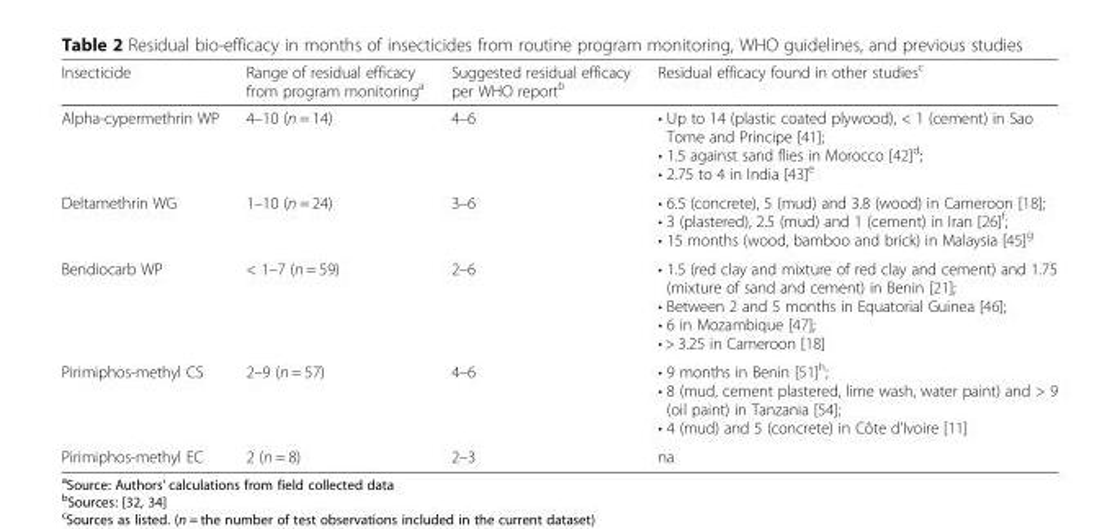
<table><thead><tr><td>Insecticide</td><td>Range of residual efficacy from program monitoring<sup>a</sup></td><td>Suggested residual efficacy per WHO report<sup>b</sup></td><td>Residual efficacy found in other studies<sup>c</sup></td></tr></thead><tbody><tr><td>Alpha-cypermethrin WP</td><td>4–10 (n = 14)</td><td>4–6</td><td>• Up to 14 (plastic coated plywood), &lt; 1 (cement) in Sao Tome and Principe [41]; • 1.5 against sand flies in Morocco [42]<sup>d</sup>; • 2.75 to 4 in India [43]<sup>e</sup></td></tr><tr><td>Deltamethrin WG</td><td>1–10 (n = 24)</td><td>3–6</td><td>• 6.5 (concrete), 5 (mud) and 3.8 (wood) in Cameroon [18]; • 3 (plastered), 2.5 (mud) and 1 (cement) in Iran [26]<sup>f</sup>; • 15 months (wood, bamboo and brick) in Malaysia [45]<sup>g</sup></td></tr><tr><td>Bendiocarb WP</td><td>&lt; 1–7 (n = 59)</td><td>2–6</td><td>• 1.5 (red clay and mixture of red clay and cement) and 1.75 (mixture of sand and cement) in Benin [21]; • Between 2 and 5 months in Equatorial Guinea [46]; • 6 in Mozambique [47]; • &gt; 3.25 in Cameroon [18]</td></tr><tr><td>Pirimiphos-methyl CS</td><td>2–9 (n = 57)</td><td>4–6</td><td>• 9 months in Benin [51]<sup>h</sup>; • 8 (mud, cement plastered, lime wash, water paint) and &gt; 9 (oil paint) in Tanzania [54]; • 4 (mud) and 5 (concrete) in Côte d’Ivoire [11]</td></tr><tr><td>Pirimiphos-methyl EC</td><td>2 (n = 8)</td><td>2–3</td><td>na</td></tr></tbody></table>